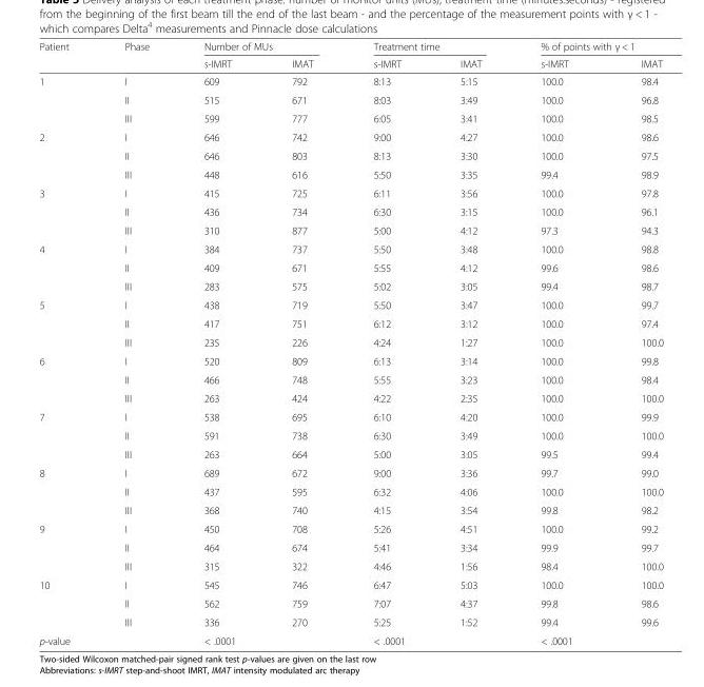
<table><thead><tr><td rowspan="2">Patient</td><td rowspan="2">Phase</td><td colspan="2">Number of MUs</td><td colspan="2">Treatment time</td><td colspan="2">% of points with γ &lt; 1</td></tr><tr><td>s-IMRT</td><td>IMAT</td><td>s-IMRT</td><td>IMAT</td><td>s-IMRT</td><td>IMAT</td></tr></thead><tbody><tr><td rowspan="3">1</td><td>I</td><td>609</td><td>792</td><td>8:13</td><td>5:15</td><td>100.0</td><td>98.4</td></tr><tr><td>II</td><td>515</td><td>671</td><td>8:03</td><td>3:49</td><td>100.0</td><td>96.8</td></tr><tr><td>III</td><td>599</td><td>777</td><td>6:05</td><td>3:41</td><td>100.0</td><td>98.5</td></tr><tr><td rowspan="3">2</td><td>I</td><td>646</td><td>742</td><td>9:00</td><td>4:27</td><td>100.0</td><td>98.6</td></tr><tr><td>II</td><td>646</td><td>803</td><td>8:13</td><td>3:30</td><td>100.0</td><td>97.5</td></tr><tr><td>III</td><td>448</td><td>616</td><td>5:50</td><td>3:35</td><td>99.4</td><td>98.9</td></tr><tr><td rowspan="3">3</td><td>I</td><td>415</td><td>725</td><td>6:11</td><td>3:56</td><td>100.0</td><td>97.8</td></tr><tr><td>II</td><td>436</td><td>734</td><td>6:30</td><td>3:15</td><td>100.0</td><td>96.1</td></tr><tr><td>III</td><td>310</td><td>877</td><td>5:00</td><td>4:12</td><td>97.3</td><td>94.3</td></tr><tr><td rowspan="3">4</td><td>I</td><td>384</td><td>737</td><td>5:50</td><td>3:48</td><td>100.0</td><td>98.8</td></tr><tr><td>II</td><td>409</td><td>671</td><td>5:55</td><td>4:12</td><td>99.6</td><td>98.6</td></tr><tr><td>III</td><td>283</td><td>575</td><td>5:02</td><td>3:05</td><td>99.4</td><td>98.7</td></tr><tr><td rowspan="3">5</td><td>I</td><td>438</td><td>719</td><td>5:50</td><td>3:47</td><td>100.0</td><td>99.7</td></tr><tr><td>II</td><td>417</td><td>751</td><td>6:12</td><td>3:12</td><td>100.0</td><td>97.4</td></tr><tr><td>III</td><td>235</td><td>226</td><td>4:24</td><td>1:27</td><td>100.0</td><td>100.0</td></tr><tr><td rowspan="3">6</td><td>I</td><td>520</td><td>809</td><td>6:13</td><td>3:14</td><td>100.0</td><td>99.8</td></tr><tr><td>II</td><td>466</td><td>748</td><td>5:55</td><td>3:23</td><td>100.0</td><td>98.4</td></tr><tr><td>III</td><td>263</td><td>424</td><td>4:22</td><td>2:35</td><td>100.0</td><td>100.0</td></tr><tr><td rowspan="3">7</td><td>I</td><td>538</td><td>695</td><td>6:10</td><td>4:20</td><td>100.0</td><td>99.9</td></tr><tr><td>II</td><td>591</td><td>738</td><td>6:30</td><td>3:49</td><td>100.0</td><td>100.0</td></tr><tr><td>III</td><td>263</td><td>664</td><td>5:00</td><td>3:05</td><td>99.5</td><td>99.4</td></tr><tr><td rowspan="3">8</td><td>I</td><td>689</td><td>672</td><td>9:00</td><td>3:36</td><td>99.7</td><td>99.0</td></tr><tr><td>II</td><td>437</td><td>595</td><td>6:32</td><td>4:06</td><td>100.0</td><td>100.0</td></tr><tr><td>III</td><td>368</td><td>740</td><td>4:15</td><td>3:54</td><td>99.8</td><td>98.2</td></tr><tr><td rowspan="3">9</td><td>I</td><td>450</td><td>708</td><td>5:26</td><td>4:51</td><td>100.0</td><td>99.2</td></tr><tr><td>II</td><td>464</td><td>674</td><td>5:41</td><td>3:34</td><td>99.9</td><td>99.7</td></tr><tr><td>III</td><td>315</td><td>322</td><td>4:46</td><td>1:56</td><td>98.4</td><td>100.0</td></tr><tr><td rowspan="3">10</td><td>I</td><td>545</td><td>746</td><td>6:47</td><td>5:03</td><td>100.0</td><td>100.0</td></tr><tr><td>II</td><td>562</td><td>759</td><td>7:07</td><td>4:37</td><td>99.8</td><td>98.6</td></tr><tr><td>III</td><td>336</td><td>270</td><td>5:25</td><td>1:52</td><td>99.4</td><td>99.6</td></tr><tr><td>p-value</td><td></td><td colspan="2">&lt; .0001</td><td colspan="2">&lt; .0001</td><td colspan="2">&lt; .0001</td></tr></tbody></table>